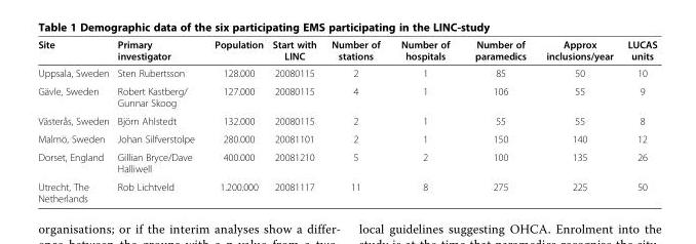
<table><thead><tr><td>Site</td><td>Primary investigator</td><td>Population</td><td>Start with LINC</td><td>Number of stations</td><td>Number of hospitals</td><td>Number of paramedics</td><td>Approx inclusions/year</td><td>LUCAS units</td></tr></thead><tbody><tr><td>Uppsala, Sweden</td><td>Sten Rubertsson</td><td>128.000</td><td>20080115</td><td>2</td><td>1</td><td>85</td><td>50</td><td>10</td></tr><tr><td>Gävle, Sweden</td><td>Robert Kastberg/ Gunnar Skoog</td><td>127.000</td><td>20080115</td><td>4</td><td>1</td><td>106</td><td>55</td><td>9</td></tr><tr><td>Västerås, Sweden</td><td>Björn Ahlstedt</td><td>132.000</td><td>20080115</td><td>2</td><td>1</td><td>55</td><td>55</td><td>8</td></tr><tr><td>Malmö, Sweden</td><td>Johan Silfverstolpe</td><td>280.000</td><td>20081101</td><td>2</td><td>1</td><td>150</td><td>140</td><td>12</td></tr><tr><td>Dorset, England</td><td>Gillian Bryce/Dave Halliwell</td><td>400.000</td><td>20081210</td><td>5</td><td>2</td><td>100</td><td>135</td><td>26</td></tr><tr><td>Utrecht, The Netherlands</td><td>Rob Lichtveld</td><td>1.200.000</td><td>20081117</td><td>11</td><td>8</td><td>275</td><td>225</td><td>50</td></tr></tbody></table>